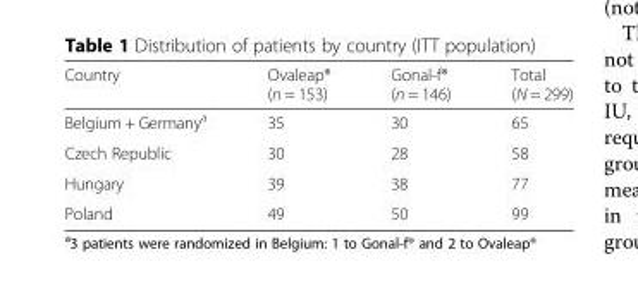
<table><thead><tr><td>Country</td><td>Ovaleap® (n = 153)</td><td>Gonal-f® (n = 146)</td><td>Total (N = 299)</td></tr></thead><tbody><tr><td>Belgium + Germany<sup>a</sup></td><td>35</td><td>30</td><td>65</td></tr><tr><td>Czech Republic</td><td>30</td><td>28</td><td>58</td></tr><tr><td>Hungary</td><td>39</td><td>38</td><td>77</td></tr><tr><td>Poland</td><td>49</td><td>50</td><td>99</td></tr></tbody></table>